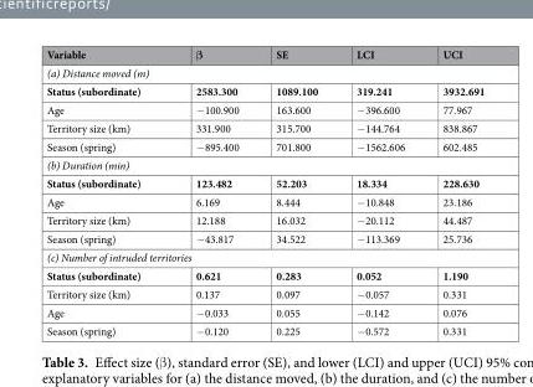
<table><thead><tr><td>Variable</td><td>β</td><td>SE</td><td>LCI</td><td>UCI</td></tr></thead><tbody><tr><td colspan="5">(a) Distance moved (m)</td></tr><tr><td>Status (subordinate)</td><td>2583.300</td><td>1089.100</td><td>319.241</td><td>3932.691</td></tr><tr><td>Age</td><td>−100.900</td><td>163.600</td><td>−396.600</td><td>77.967</td></tr><tr><td>Territory size (km)</td><td>331.900</td><td>315.700</td><td>−144.764</td><td>838.867</td></tr><tr><td>Season (spring)</td><td>−895.400</td><td>701.800</td><td>−1562.606</td><td>602.485</td></tr><tr><td colspan="5">(b) Duration (min)</td></tr><tr><td>Status (subordinate)</td><td>123.482</td><td>52.203</td><td>18.334</td><td>228.630</td></tr><tr><td>Age</td><td>6.169</td><td>8.444</td><td>−10.848</td><td>23.186</td></tr><tr><td>Territory size (km)</td><td>12.188</td><td>16.032</td><td>−20.112</td><td>44.487</td></tr><tr><td>Season (spring)</td><td>−43.817</td><td>34.522</td><td>−113.369</td><td>25.736</td></tr><tr><td colspan="5">(c) Number of intruded territories</td></tr><tr><td>Status (subordinate)</td><td>0.621</td><td>0.283</td><td>0.052</td><td>1.190</td></tr><tr><td>Territory size (km)</td><td>0.137</td><td>0.097</td><td>−0.057</td><td>0.331</td></tr><tr><td>Age</td><td>−0.033</td><td>0.055</td><td>−0.142</td><td>0.076</td></tr><tr><td>Season (spring)</td><td>−0.120</td><td>0.225</td><td>−0.572</td><td>0.331</td></tr></tbody></table>